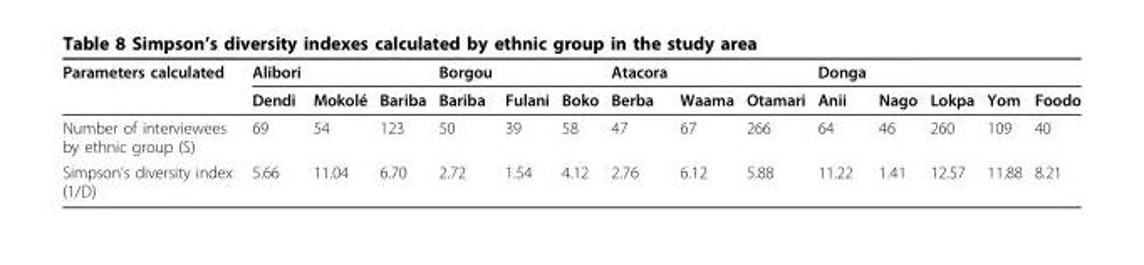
<table><thead><tr><td rowspan="2">Parameters calculated</td><td rowspan="2">Alibori Dendi</td><td rowspan="2">Mokolé</td><td rowspan="2">Bariba</td><td rowspan="2">Borgou Bariba</td><td rowspan="2">Fulani</td><td rowspan="2">Boko</td><td rowspan="2">Atacora Berba</td><td rowspan="2">Waama</td><td rowspan="2">Otamari</td><td rowspan="2">Donga Anii</td><td rowspan="2">Nago</td><td rowspan="2">Lokpa</td><td rowspan="2">Yom</td><td rowspan="2">Foodo</td></tr><tr></tr></thead><tbody><tr><td>Number of interviewees by ethnic group (S)</td><td>69</td><td>54</td><td>123</td><td>50</td><td>39</td><td>58</td><td>47</td><td>67</td><td>266</td><td>64</td><td>46</td><td>260</td><td>109</td><td>40</td></tr><tr><td>Simpson’s diversity index (1/D)</td><td>5.66</td><td>11.04</td><td>6.70</td><td>2.72</td><td>1.54</td><td>4.12</td><td>2.76</td><td>6.12</td><td>5.88</td><td>11.22</td><td>1.41</td><td>12.57</td><td>11.88</td><td>8.21</td></tr></tbody></table>